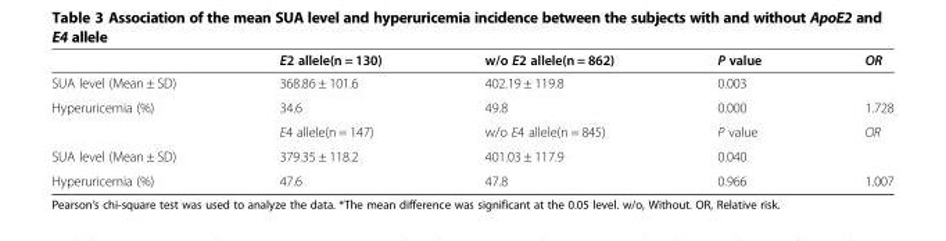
<table><thead><tr><td></td><td>E2 allele(n = 130)</td><td>w/o E2 allele(n = 862)</td><td>P value</td><td>OR</td></tr></thead><tbody><tr><td>SUA level (Mean ± SD)</td><td>368.86 ± 101.6</td><td>402.19 ± 119.8</td><td>0.003</td><td></td></tr><tr><td rowspan="2">Hyperuricemia (%)</td><td>34.6</td><td>49.8</td><td>0.000</td><td>1.728</td></tr><tr><td>E4 allele(n = 147)</td><td>w/o E4 allele(n = 845)</td><td>P value</td><td>OR</td></tr><tr><td>SUA level (Mean ± SD)</td><td>379.35 ± 118.2</td><td>401.03 ± 117.9</td><td>0.040</td><td></td></tr><tr><td>Hyperuricemia (%)</td><td>47.6</td><td>47.8</td><td>0.966</td><td>1.007</td></tr></tbody></table>